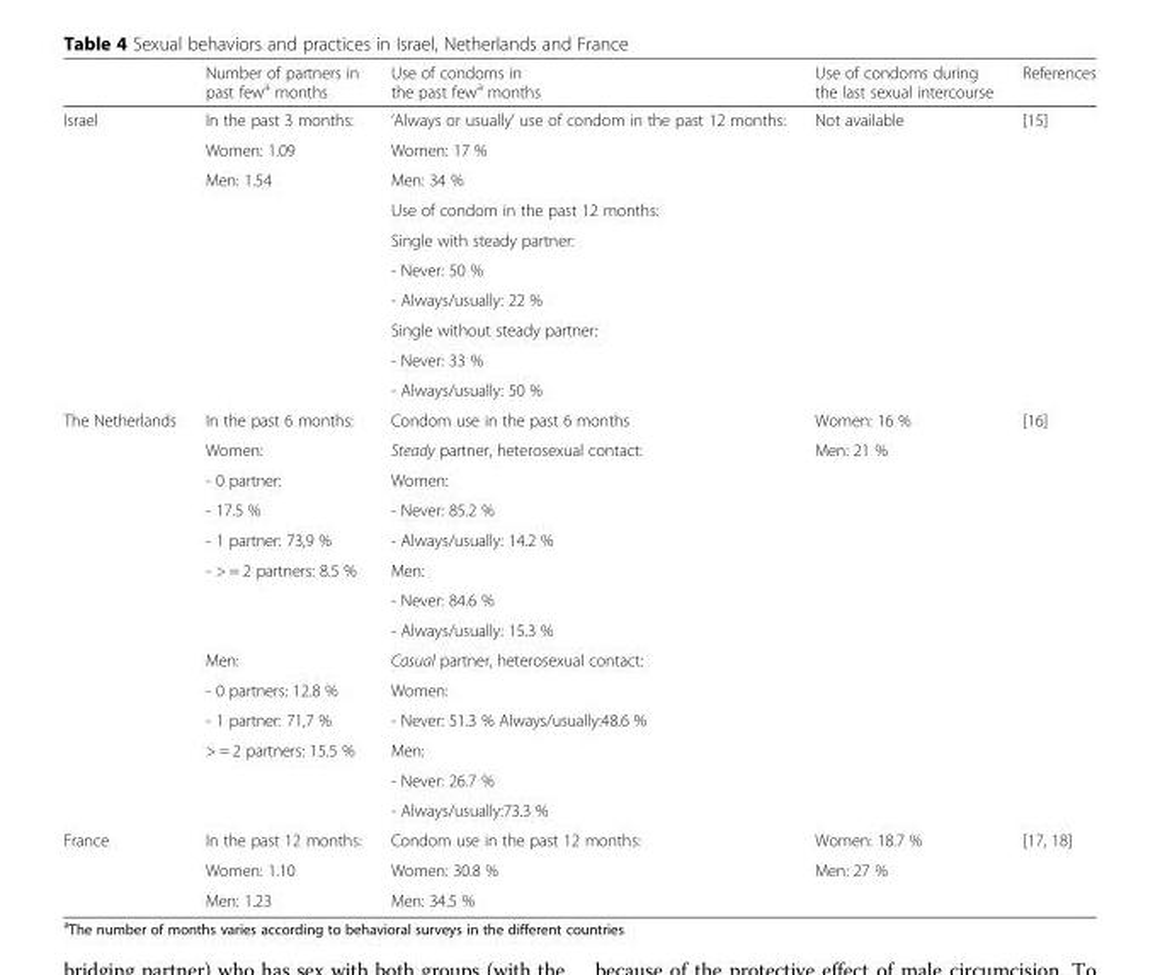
<table><thead><tr><td></td><td>Number of partners in past few<sup>a</sup> months</td><td>Use of condoms in the past few<sup>a</sup> months</td><td>Use of condoms during the last sexual intercourse</td><td>References</td></tr></thead><tbody><tr><td rowspan="10">Israel</td><td>In the past 3 months:</td><td>‘Always or usually’ use of condom in the past 12 months:</td><td rowspan="10">Not available</td><td rowspan="10">[15]</td></tr><tr><td>Women: 1.09</td><td>Women: 17 %</td></tr><tr><td rowspan="8">Men: 1.54</td><td>Men: 34 %</td></tr><tr><td>Use of condom in the past 12 months:</td></tr><tr><td>Single with steady partner:</td></tr><tr><td>- Never: 50 %</td></tr><tr><td>- Always/usually: 22 %</td></tr><tr><td>Single without steady partner:</td></tr><tr><td>- Never: 33 %</td></tr><tr><td>- Always/usually: 50 %</td></tr><tr><td rowspan="14">The Netherlands</td><td>In the past 6 months:</td><td>Condom use in the past 6 months</td><td>Women: 16 %</td><td rowspan="14">[16]</td></tr><tr><td>Women:</td><td>Steady partner, heterosexual contact:</td><td>Men: 21 %</td></tr><tr><td>- 0 partner:</td><td>Women:</td><td rowspan="12"></td></tr><tr><td>- 17.5 %</td><td>- Never: 85.2 %</td></tr><tr><td>- 1 partner: 73,9 %</td><td>- Always/usually: 14.2 %</td></tr><tr><td>- &gt; = 2 partners: 8.5 %</td><td>Men:</td></tr><tr><td rowspan="2"></td><td>- Never: 84.6 %</td></tr><tr><td>- Always/usually: 15.3 %</td></tr><tr><td>Men:</td><td>Casual partner, heterosexual contact:</td></tr><tr><td>- 0 partners: 12.8 %</td><td>Women:</td></tr><tr><td>- 1 partner: 71,7 %</td><td>- Never: 51.3 % Always/usually:48.6 %</td></tr><tr><td rowspan="3">&gt; = 2 partners: 15.5 %</td><td>Men:</td></tr><tr><td>- Never: 26.7 %</td></tr><tr><td>- Always/usually:73.3 %</td></tr><tr><td rowspan="3">France</td><td>In the past 12 months:</td><td>Condom use in the past 12 months:</td><td>Women: 18.7 %</td><td rowspan="3">[17, 18]</td></tr><tr><td>Women: 1.10</td><td>Women: 30.8 %</td><td rowspan="2">Men: 27 %</td></tr><tr><td>Men: 1.23</td><td>Men: 34.5 %</td></tr></tbody></table>